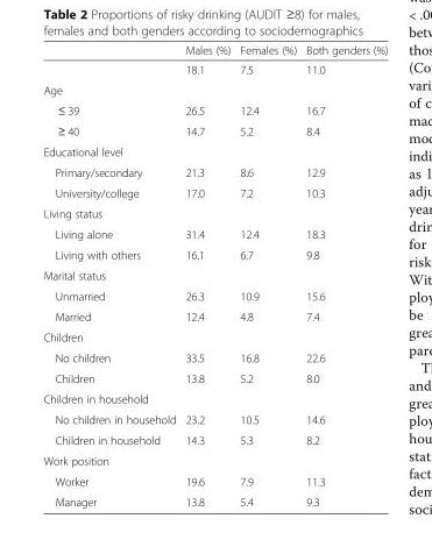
<table><thead><tr><td></td><td>Males (%)</td><td>Females (%)</td><td>Both genders (%)</td></tr></thead><tbody><tr><td></td><td>18.1</td><td>7.5</td><td>11.0</td></tr><tr><td colspan="4">Age</td></tr><tr><td>≤ 39</td><td>26.5</td><td>12.4</td><td>16.7</td></tr><tr><td>≥ 40</td><td>14.7</td><td>5.2</td><td>8.4</td></tr><tr><td colspan="4">Educational level</td></tr><tr><td>Primary/secondary</td><td>21.3</td><td>8.6</td><td>12.9</td></tr><tr><td>University/college</td><td>17.0</td><td>7.2</td><td>10.3</td></tr><tr><td colspan="4">Living status</td></tr><tr><td>Living alone</td><td>31.4</td><td>12.4</td><td>18.3</td></tr><tr><td>Living with others</td><td>16.1</td><td>6.7</td><td>9.8</td></tr><tr><td colspan="4">Marital status</td></tr><tr><td>Unmarried</td><td>26.3</td><td>10.9</td><td>15.6</td></tr><tr><td>Married</td><td>12.4</td><td>4.8</td><td>7.4</td></tr><tr><td colspan="4">Children</td></tr><tr><td>No children</td><td>33.5</td><td>16.8</td><td>22.6</td></tr><tr><td>Children</td><td>13.8</td><td>5.2</td><td>8.0</td></tr><tr><td colspan="4">Children in household</td></tr><tr><td>No children in household</td><td>23.2</td><td>10.5</td><td>14.6</td></tr><tr><td>Children in household</td><td>14.3</td><td>5.3</td><td>8.2</td></tr><tr><td colspan="4">Work position</td></tr><tr><td>Worker</td><td>19.6</td><td>7.9</td><td>11.3</td></tr><tr><td>Manager</td><td>13.8</td><td>5.4</td><td>9.3</td></tr></tbody></table>